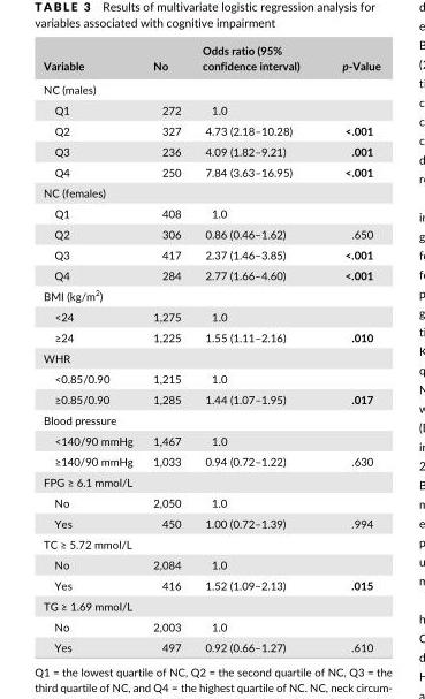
<table><thead><tr><td>Variable</td><td>No</td><td>Odds ratio (95% confidence interval)</td><td>p- Value</td></tr></thead><tbody><tr><td colspan="4">NC (males)</td></tr><tr><td>Q1</td><td>272</td><td>1.0</td><td></td></tr><tr><td>Q2</td><td>327</td><td>4.73 (2.18–10.28)</td><td>&lt;.001</td></tr><tr><td>Q3</td><td>236</td><td>4.09 (1.82–9.21)</td><td>.001</td></tr><tr><td>Q4</td><td>250</td><td>7.84 (3.63–16.95)</td><td>&lt;.001</td></tr><tr><td colspan="4">NC (females)</td></tr><tr><td>Q1</td><td>408</td><td>1.0</td><td></td></tr><tr><td>Q2</td><td>306</td><td>0.86 (0.46–1.62)</td><td>.650</td></tr><tr><td>Q3</td><td>417</td><td>2.37 (1.46–3.85)</td><td>&lt;.001</td></tr><tr><td>Q4</td><td>284</td><td>2.77 (1.66–4.60)</td><td>&lt;.001</td></tr><tr><td colspan="4">BMI (kg/m<sup>2</sup>)</td></tr><tr><td>&lt;24</td><td>1,275</td><td>1.0</td><td></td></tr><tr><td>≥24</td><td>1,225</td><td>1.55 (1.11–2.16)</td><td>.010</td></tr><tr><td colspan="4">WHR</td></tr><tr><td>&lt;0.85/0.90</td><td>1,215</td><td>1.0</td><td></td></tr><tr><td>≥0.85/0.90</td><td>1,285</td><td>1.44 (1.07–1.95)</td><td>.017</td></tr><tr><td colspan="4">Blood pressure</td></tr><tr><td>&lt;140/90 mmHg</td><td>1,467</td><td>1.0</td><td></td></tr><tr><td>≥140/90 mmHg</td><td>1,033</td><td>0.94 (0.72–1.22)</td><td>.630</td></tr><tr><td colspan="4">FPG ≥ 6.1 mmol/L</td></tr><tr><td>No</td><td>2,050</td><td>1.0</td><td></td></tr><tr><td>Yes</td><td>450</td><td>1.00 (0.72–1.39)</td><td>.994</td></tr><tr><td colspan="4">TC ≥ 5.72 mmol/L</td></tr><tr><td>No</td><td>2,084</td><td>1.0</td><td></td></tr><tr><td>Yes</td><td>416</td><td>1.52 (1.09–2.13)</td><td>.015</td></tr><tr><td colspan="4">TG ≥ 1.69 mmol/L</td></tr><tr><td>No</td><td>2,003</td><td>1.0</td><td></td></tr><tr><td>Yes</td><td>497</td><td>0.92 (0.66–1.27)</td><td>.610</td></tr></tbody></table>